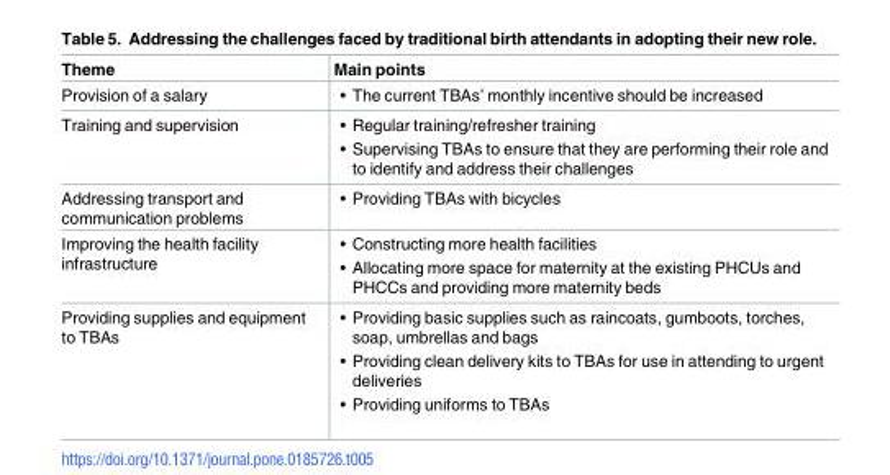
<table><thead><tr><td>Theme</td><td>Main points</td></tr></thead><tbody><tr><td>Provision of a salary</td><td>• The current TBAs’ monthly incentive should be increased</td></tr><tr><td>Training and supervision</td><td>• Regular training/refresher training • Supervising TBAs to ensure that they are performing their role and to identify and address their challenges</td></tr><tr><td>Addressing transport and communication problems</td><td>• Providing TBAs with bicycles</td></tr><tr><td>Improving the health facility infrastructure</td><td>• Constructing more health facilities • Allocating more space for maternity at the existing PHCUs and PHCCs and providing more maternity beds</td></tr><tr><td>Providing supplies and equipment to TBAs</td><td>• Providing basic supplies such as raincoats, gumboots, torches, soap, umbrellas and bags • Providing clean delivery kits to TBAs for use in attending to urgent deliveries • Providing uniforms to TBAs</td></tr></tbody></table>